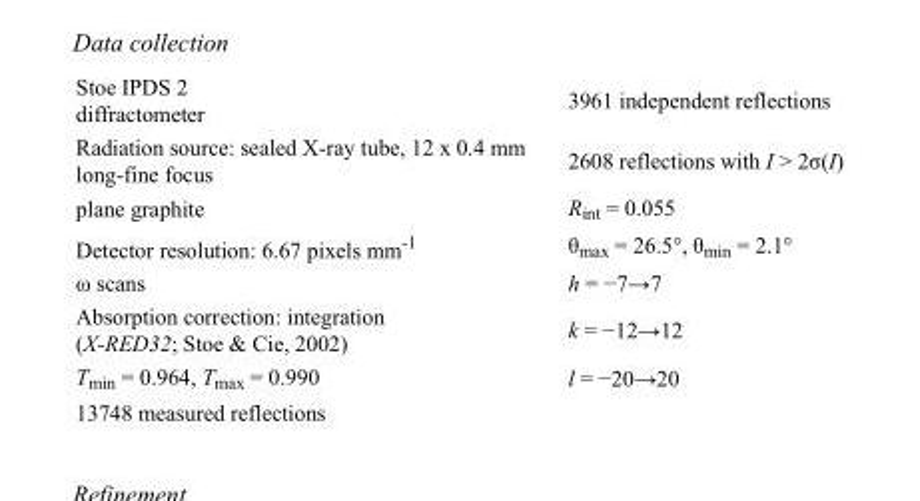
<table><tbody><tr><td>Stoe IPDS 2 diffractometer</td><td>3961 independent reflections</td></tr><tr><td>Radiation source: sealed X-ray tube, 12 x 0.4 mm long-fine focus</td><td>2608 reflections with I &gt; 2σ(I)</td></tr><tr><td>plane graphite</td><td>R<sub>int</sub> = 0.055</td></tr><tr><td>Detector resolution: 6.67 pixels mm<sup>-1</sup></td><td>θ<sub>max</sub> = 26.5°, θ<sub>min</sub> = 2.1°</td></tr><tr><td>ω scans</td><td>h = −7→7</td></tr><tr><td>Absorption correction: integration (X-RED32; Stoe &amp; Cie, 2002)</td><td>k = −12→12</td></tr><tr><td>T<sub>min</sub> = 0.964, T<sub>max</sub> = 0.990</td><td>l = −20→20</td></tr><tr><td>13748 measured reflections</td><td></td></tr></tbody></table>